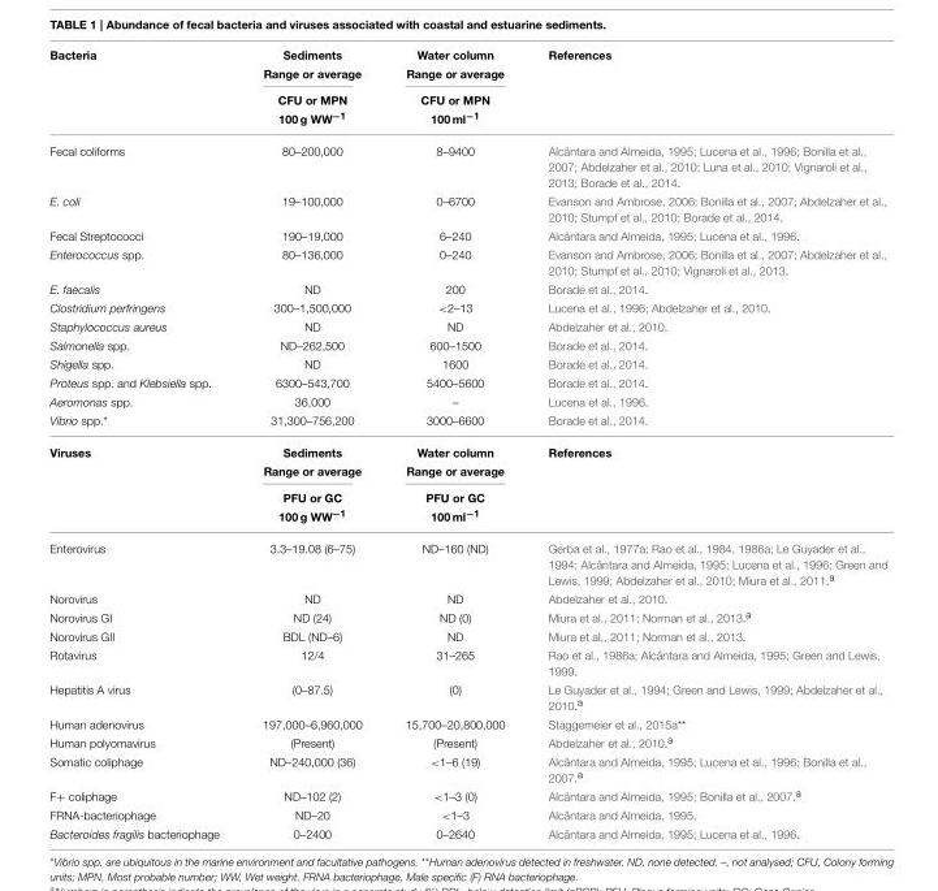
<table><thead><tr><td rowspan="2">Bacteria</td><td rowspan="2">Sediments Range or average CFU or MPN 100 g WW−1</td><td rowspan="2">Water column Range or average CFU or MPN 100 ml−1</td><td rowspan="2">References</td></tr><tr></tr></thead><tbody><tr><td>Fecal coliforms</td><td>80–200,000</td><td>8–9400</td><td>Alcântara and Almeida, 1995; Lucena et al., 1996; Bonilla et al., 2007; Abdelzaher et al., 2010; Luna et al., 2010; Vignaroli et al., 2013; Borade et al., 2014.</td></tr><tr><td>E. coli</td><td>19–100,000</td><td>0–6700</td><td>Evanson and Ambrose, 2006; Bonilla et al., 2007; Abdelzaher et al., 2010; Stumpf et al., 2010; Borade et al., 2014.</td></tr><tr><td>Fecal Streptococci</td><td>190–19,000</td><td>6–240</td><td>Alcântara and Almeida, 1995; Lucena et al., 1996.</td></tr><tr><td>Enterococcus spp.</td><td>80–136,000</td><td>0–240</td><td>Evanson and Ambrose, 2006; Bonilla et al., 2007; Abdelzaher et al., 2010; Stumpf et al., 2010; Vignaroli et al., 2013.</td></tr><tr><td>E. faecalis</td><td>ND</td><td>200</td><td>Borade et al., 2014.</td></tr><tr><td>Clostridium perfringens</td><td>300–1,500,000</td><td>&lt;2–13</td><td>Lucena et al., 1996; Abdelzaher et al., 2010.</td></tr><tr><td>Staphylococcus aureus</td><td>ND</td><td>ND</td><td>Abdelzaher et al., 2010.</td></tr><tr><td>Salmonella spp.</td><td>ND–262,500</td><td>600–1500</td><td>Borade et al., 2014.</td></tr><tr><td>Shigella spp.</td><td>ND</td><td>1600</td><td>Borade et al., 2014.</td></tr><tr><td>Proteus spp. and Klebsiella spp.</td><td>6300–543,700</td><td>5400–5600</td><td>Borade et al., 2014.</td></tr><tr><td>Aeromonas spp.</td><td>36,000</td><td>–</td><td>Lucena et al., 1996.</td></tr><tr><td>Vibrio spp.*</td><td>31,300–756,200</td><td>3000–6600</td><td>Borade et al., 2014.</td></tr><tr><td rowspan="2">Viruses</td><td>Sediments Range or average</td><td>Water column Range or average</td><td>References</td></tr><tr><td>PFU or GC 100 g WW<sup>−1</sup></td><td>PFU or GC 100 ml<sup>−1</sup></td><td></td></tr><tr><td>Enterovirus</td><td>3.3–19.08 (6–75)</td><td>ND–160 (ND)</td><td>Gerba et al., 1977a; Rao et al., 1984, 1986a; Le Guyader et al., 1994; Alcântara and Almeida, 1995; Lucena et al., 1996; Green and Lewis, 1999; Abdelzaher et al., 2010; Miura et al., 2011.<sup>a</sup></td></tr><tr><td>Norovirus</td><td>ND</td><td>ND</td><td>Abdelzaher et al., 2010.</td></tr><tr><td>Norovirus GI</td><td>ND (24)</td><td>ND (0)</td><td>Miura et al., 2011; Norman et al., 2013.<sup>a</sup></td></tr><tr><td>Norovirus GII</td><td>BDL (ND–6)</td><td>ND</td><td>Miura et al., 2011; Norman et al., 2013.</td></tr><tr><td>Rotavirus</td><td>12/4</td><td>31–265</td><td>Rao et al., 1986a; Alcântara and Almeida, 1995; Green and Lewis, 1999.</td></tr><tr><td>Hepatitis A virus</td><td>(0–87.5)</td><td>(0)</td><td>Le Guyader et al., 1994; Green and Lewis, 1999; Abdelzaher et al., 2010.<sup>a</sup></td></tr><tr><td>Human adenovirus</td><td>197,000–6,960,000</td><td>15,700–20,800,000</td><td>Staggemeier et al., 2015a**</td></tr><tr><td>Human polyomavirus</td><td>(Present)</td><td>(Present)</td><td>Abdelzaher et al., 2010.<sup>a</sup></td></tr><tr><td>Somatic coliphage</td><td>ND–240,000 (36)</td><td>&lt;1–6 (19)</td><td>Alcântara and Almeida, 1995; Lucena et al., 1996; Bonilla et al., 2007.<sup>a</sup></td></tr><tr><td>F+ coliphage</td><td>ND–102 (2)</td><td>&lt;1–3 (0)</td><td>Alcântara and Almeida, 1995; Bonilla et al., 2007.<sup>a</sup></td></tr><tr><td>FRNA-bacteriophage</td><td>ND–20</td><td>&lt;1–3</td><td>Alcântara and Almeida, 1995.</td></tr><tr><td>Bacteroides fragilis bacteriophage</td><td>0–2400</td><td>0–2640</td><td>Alcântara and Almeida, 1995; Lucena et al., 1996.</td></tr></tbody></table>